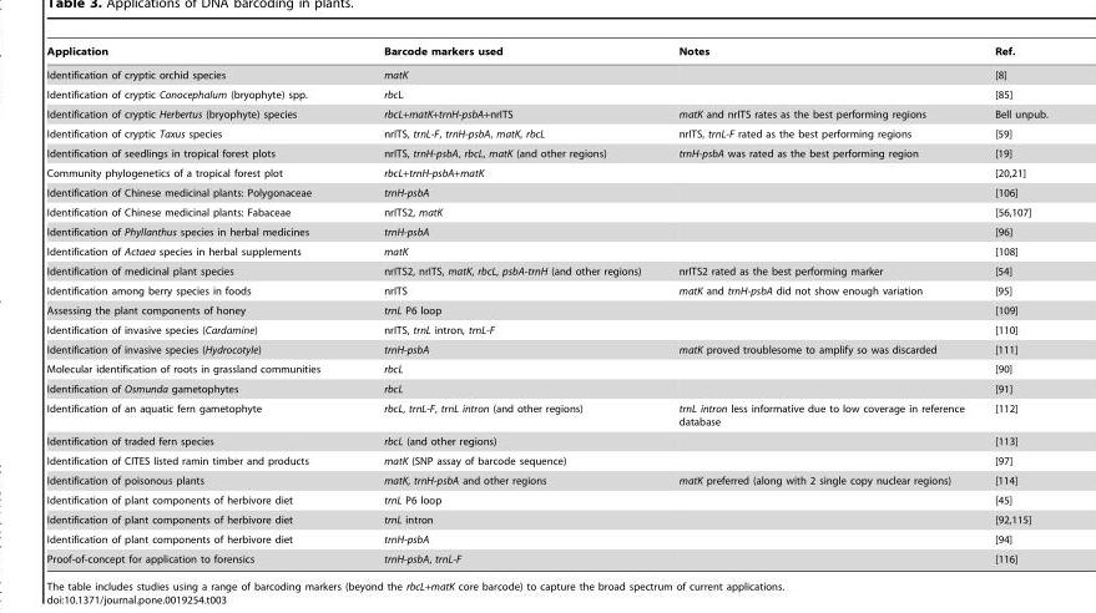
<table><thead><tr><td>Application</td><td>Barcode markers used</td><td>Notes</td><td>Ref.</td></tr></thead><tbody><tr><td>Identification of cryptic orchid species</td><td>matK</td><td></td><td>[8]</td></tr><tr><td>Identification of cryptic Conocephalum (bryophyte) spp.</td><td>rbcL</td><td></td><td>[85]</td></tr><tr><td>Identification of cryptic Herbertus (bryophyte) species</td><td>rbcL+matK+trnH-psbA+nrITS</td><td>matK and nrITS rates as the best performing regions</td><td>Bell unpub.</td></tr><tr><td>Identification of cryptic Taxus species</td><td>nrITS, trnL-F, trnH-psbA, matK, rbcL</td><td>nrITS, trnL-F rated as the best performing regions</td><td>[59]</td></tr><tr><td>Identification of seedlings in tropical forest plots</td><td>nrITS, trnH-psbA, rbcL, matK (and other regions)</td><td>trnH-psbA was rated as the best performing region</td><td>[19]</td></tr><tr><td>Community phylogenetics of a tropical forest plot</td><td>rbcL+trnH-psbA+matK</td><td></td><td>[20,21]</td></tr><tr><td>Identification of Chinese medicinal plants: Polygonaceae</td><td>trnH-psbA</td><td></td><td>[106]</td></tr><tr><td>Identification of Chinese medicinal plants: Fabaceae</td><td>nrITS2, matK</td><td></td><td>[56,107]</td></tr><tr><td>Identification of Phyllanthus species in herbal medicines</td><td>trnH-psbA</td><td></td><td>[96]</td></tr><tr><td>Identification of Actaea species in herbal supplements</td><td>matK</td><td></td><td>[108]</td></tr><tr><td>Identification of medicinal plant species</td><td>nrITS2, nrITS, matK, rbcL, psbA-trnH (and other regions)</td><td>nrITS2 rated as the best performing marker</td><td>[54]</td></tr><tr><td>Identification among berry species in foods</td><td>nrITS</td><td>matK and trnH-psbA did not show enough variation</td><td>[95]</td></tr><tr><td>Assessing the plant components of honey</td><td>trnL P6 loop</td><td></td><td>[109]</td></tr><tr><td>Identification of invasive species (Cardamine)</td><td>nrITS, trnL intron, trnL-F</td><td></td><td>[110]</td></tr><tr><td>Identification of invasive species (Hydrocotyle)</td><td>trnH-psbA</td><td>matK proved troublesome to amplify so was discarded</td><td>[111]</td></tr><tr><td>Molecular identification of roots in grassland communities</td><td>rbcL</td><td></td><td>[90]</td></tr><tr><td>Identification of Osmunda gametophytes</td><td>rbcL</td><td></td><td>[91]</td></tr><tr><td>Identification of an aquatic fern gametophyte</td><td>rbcL, trnL-F, trnL intron (and other regions)</td><td>trnL intron less informative due to low coverage in reference database</td><td>[112]</td></tr><tr><td>Identification of traded fern species</td><td>rbcL (and other regions)</td><td></td><td>[113]</td></tr><tr><td>Identification of CITES listed ramin timber and products</td><td>matK (SNP assay of barcode sequence)</td><td></td><td>[97]</td></tr><tr><td>Identification of poisonous plants</td><td>matK, trnH-psbA and other regions</td><td>matK preferred (along with 2 single copy nuclear regions)</td><td>[114]</td></tr><tr><td>Identification of plant components of herbivore diet</td><td>trnL P6 loop</td><td></td><td>[45]</td></tr><tr><td>Identification of plant components of herbivore diet</td><td>trnL intron</td><td></td><td>[92,115]</td></tr><tr><td>Identification of plant components of herbivore diet</td><td>trnH-psbA</td><td></td><td>[94]</td></tr><tr><td>Proof-of-concept for application to forensics</td><td>trnH-psbA, trnL-F</td><td></td><td>[116]</td></tr></tbody></table>